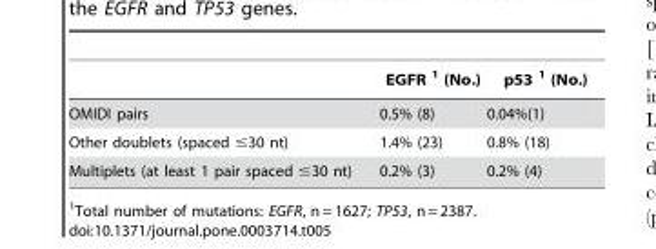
<table><thead><tr><td></td><td>EGFR 1 (No.)</td><td>p53 1 (No.)</td></tr></thead><tbody><tr><td>OMIDI pairs</td><td>0.5% (8)</td><td>0.04%(1)</td></tr><tr><td>Other doublets (spaced ≤30 nt)</td><td>1.4% (23)</td><td>0.8% (18)</td></tr><tr><td>Multiplets (at least 1 pair spaced ≤30 nt)</td><td>0.2% (3)</td><td>0.2% (4)</td></tr></tbody></table>